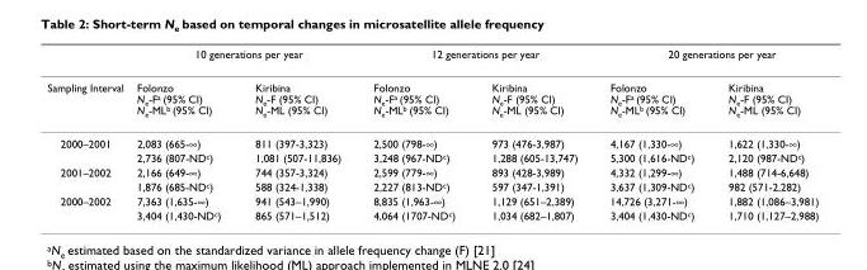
<table><thead><tr><td rowspan="2">Sampling Interval</td><td colspan="2">10 generations per year</td><td colspan="2">12 generations per year</td><td colspan="2">20 generations per year</td></tr><tr><td>Folonzo N<sub>e</sub>-F<sup>a</sup> (95% CI) N<sub>e</sub>-ML<sup>b</sup> (95% CI)</td><td>Kiribina N<sub>e</sub>-F (95% CI) N<sub>e</sub>-ML (95% CI)</td><td>Folonzo N<sub>e</sub>-F<sup>a</sup> (95% CI) N<sub>e</sub>-ML<sup>b</sup> (95% CI)</td><td>Kiribina N<sub>e</sub>-F (95% CI) N<sub>e</sub>-ML (95% CI)</td><td>Folonzo N<sub>e</sub>-F<sup>a</sup> (95% CI) N<sub>e</sub>-ML<sup>b</sup> (95% CI)</td><td>Kiribina N<sub>e</sub>-F (95% CI) N<sub>e</sub>-ML (95% CI)</td></tr></thead><tbody><tr><td rowspan="2">2000–2001</td><td>2,083 (665-∞)</td><td>811 (397-3,323)</td><td>2,500 (798-∞)</td><td>973 (476-3,987)</td><td>4,167 (1,330-∞)</td><td>1,622 (1,330-∞)</td></tr><tr><td>2,736 (807-ND<sup>c</sup>)</td><td>1,081 (507-11,836)</td><td>3,248 (967-ND<sup>c</sup>)</td><td>1,288 (605-13,747)</td><td>5,300 (1,616-ND<sup>c</sup>)</td><td>2,120 (987-ND<sup>c</sup>)</td></tr><tr><td rowspan="2">2001–2002</td><td>2,166 (649-∞)</td><td>744 (357-3,324)</td><td>2,599 (779-∞)</td><td>893 (428-3,989)</td><td>4,332 (1,299-∞)</td><td>1,488 (714-6,648)</td></tr><tr><td>1,876 (685-ND<sup>c</sup>)</td><td>588 (324-1,338)</td><td>2,227 (813-ND<sup>c</sup>)</td><td>597 (347-1,391)</td><td>3,637 (1,309-ND<sup>c</sup>)</td><td>982 (571-2,282)</td></tr><tr><td rowspan="2">2000–2002</td><td>7,363 (1,635-∞)</td><td>941 (543–1,990)</td><td>8,835 (1,963-∞)</td><td>1,129 (651–2,389)</td><td>14,726 (3,271-∞)</td><td>1,882 (1,086–3,981)</td></tr><tr><td>3,404 (1,430-ND<sup>c</sup>)</td><td>865 (571–1,512)</td><td>4,064 (1707-ND<sup>c</sup>)</td><td>1,034 (682–1,807)</td><td>3,404 (1,430-ND<sup>c</sup>)</td><td>1,710 (1,127–2,988)</td></tr></tbody></table>